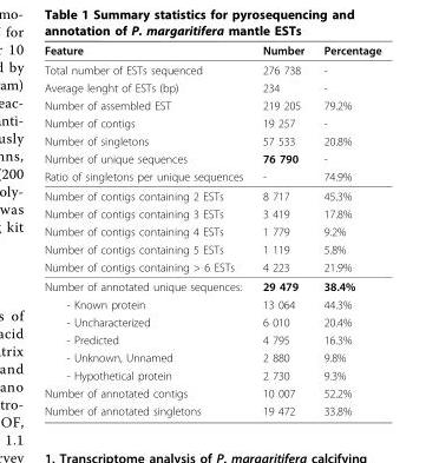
<table><thead><tr><td>Feature</td><td>Number</td><td>Percentage</td></tr></thead><tbody><tr><td>Total number of ESTs sequenced</td><td>276 738</td><td>-</td></tr><tr><td>Average lenght of ESTs (bp)</td><td>234</td><td>-</td></tr><tr><td>Number of assembled EST</td><td>219 205</td><td>79.2%</td></tr><tr><td>Number of contigs</td><td>19 257</td><td>-</td></tr><tr><td>Number of singletons</td><td>57 533</td><td>20.8%</td></tr><tr><td>Number of unique sequences</td><td>76 790</td><td>-</td></tr><tr><td>Ratio of singletons per unique sequences</td><td>-</td><td>74.9%</td></tr><tr><td>Number of contigs containing 2 ESTs</td><td>8 717</td><td>45.3%</td></tr><tr><td>Number of contigs containing 3 ESTs</td><td>3 419</td><td>17.8%</td></tr><tr><td>Number of contigs containing 4 ESTs</td><td>1 779</td><td>9.2%</td></tr><tr><td>Number of contigs containing 5 ESTs</td><td>1 119</td><td>5.8%</td></tr><tr><td>Number of contigs containing &gt; 6 ESTs</td><td>4 223</td><td>21.9%</td></tr><tr><td>Number of annotated unique sequences:</td><td>29 479</td><td>38.4%</td></tr><tr><td>- Known protein</td><td>13 064</td><td>44.3%</td></tr><tr><td>- Uncharacterized</td><td>6 010</td><td>20.4%</td></tr><tr><td>- Predicted</td><td>4 795</td><td>16.3%</td></tr><tr><td>- Unknown, Unnamed</td><td>2 880</td><td>9.8%</td></tr><tr><td>- Hypothetical protein</td><td>2 730</td><td>9.3%</td></tr><tr><td>Number of annotated contigs</td><td>10 007</td><td>52.2%</td></tr><tr><td>Number of annotated singletons</td><td>19 472</td><td>33.8%</td></tr></tbody></table>